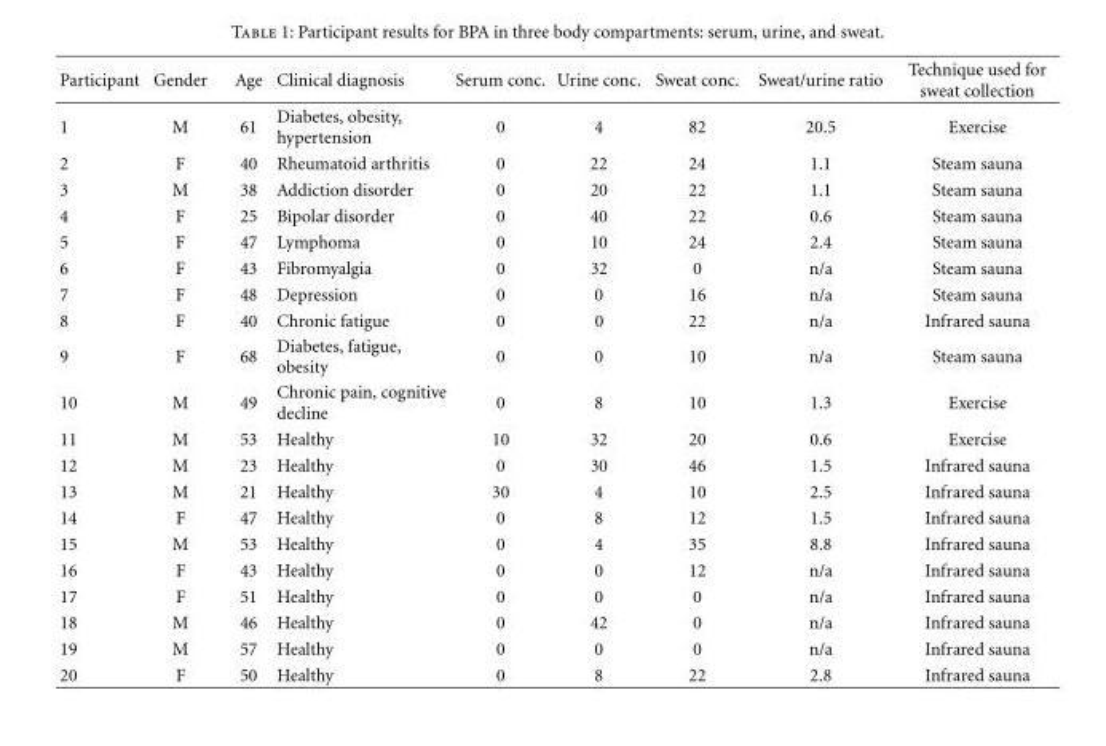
<table><thead><tr><td>Participant</td><td>Gender</td><td>Age</td><td>Clinical diagnosis</td><td>Serum conc.</td><td>Urine conc.</td><td>Sweat conc.</td><td>Sweat/urine ratio</td><td>Technique used for sweat collection</td></tr></thead><tbody><tr><td>1</td><td>M</td><td>61</td><td>Diabetes, obesity, hypertension</td><td>0</td><td>4</td><td>82</td><td>20.5</td><td>Exercise</td></tr><tr><td>2</td><td>F</td><td>40</td><td>Rheumatoid arthritis</td><td>0</td><td>22</td><td>24</td><td>1.1</td><td>Steam sauna</td></tr><tr><td>3</td><td>M</td><td>38</td><td>Addiction disorder</td><td>0</td><td>20</td><td>22</td><td>1.1</td><td>Steam sauna</td></tr><tr><td>4</td><td>F</td><td>25</td><td>Bipolar disorder</td><td>0</td><td>40</td><td>22</td><td>0.6</td><td>Steam sauna</td></tr><tr><td>5</td><td>F</td><td>47</td><td>Lymphoma</td><td>0</td><td>10</td><td>24</td><td>2.4</td><td>Steam sauna</td></tr><tr><td>6</td><td>F</td><td>43</td><td>Fibromyalgia</td><td>0</td><td>32</td><td>0</td><td>n/a</td><td>Steam sauna</td></tr><tr><td>7</td><td>F</td><td>48</td><td>Depression</td><td>0</td><td>0</td><td>16</td><td>n/a</td><td>Steam sauna</td></tr><tr><td>8</td><td>F</td><td>40</td><td>Chronic fatigue</td><td>0</td><td>0</td><td>22</td><td>n/a</td><td>Infrared sauna</td></tr><tr><td>9</td><td>F</td><td>68</td><td>Diabetes, fatigue, obesity</td><td>0</td><td>0</td><td>10</td><td>n/a</td><td>Steam sauna</td></tr><tr><td>10</td><td>M</td><td>49</td><td>Chronic pain, cognitive decline</td><td>0</td><td>8</td><td>10</td><td>1.3</td><td>Exercise</td></tr><tr><td>11</td><td>M</td><td>53</td><td>Healthy</td><td>10</td><td>32</td><td>20</td><td>0.6</td><td>Exercise</td></tr><tr><td>12</td><td>M</td><td>23</td><td>Healthy</td><td>0</td><td>30</td><td>46</td><td>1.5</td><td>Infrared sauna</td></tr><tr><td>13</td><td>M</td><td>21</td><td>Healthy</td><td>30</td><td>4</td><td>10</td><td>2.5</td><td>Infrared sauna</td></tr><tr><td>14</td><td>F</td><td>47</td><td>Healthy</td><td>0</td><td>8</td><td>12</td><td>1.5</td><td>Infrared sauna</td></tr><tr><td>15</td><td>M</td><td>53</td><td>Healthy</td><td>0</td><td>4</td><td>35</td><td>8.8</td><td>Infrared sauna</td></tr><tr><td>16</td><td>F</td><td>43</td><td>Healthy</td><td>0</td><td>0</td><td>12</td><td>n/a</td><td>Infrared sauna</td></tr><tr><td>17</td><td>F</td><td>51</td><td>Healthy</td><td>0</td><td>0</td><td>0</td><td>n/a</td><td>Infrared sauna</td></tr><tr><td>18</td><td>M</td><td>46</td><td>Healthy</td><td>0</td><td>42</td><td>0</td><td>n/a</td><td>Infrared sauna</td></tr><tr><td>19</td><td>M</td><td>57</td><td>Healthy</td><td>0</td><td>0</td><td>0</td><td>n/a</td><td>Infrared sauna</td></tr><tr><td>20</td><td>F</td><td>50</td><td>Healthy</td><td>0</td><td>8</td><td>22</td><td>2.8</td><td>Infrared sauna</td></tr></tbody></table>